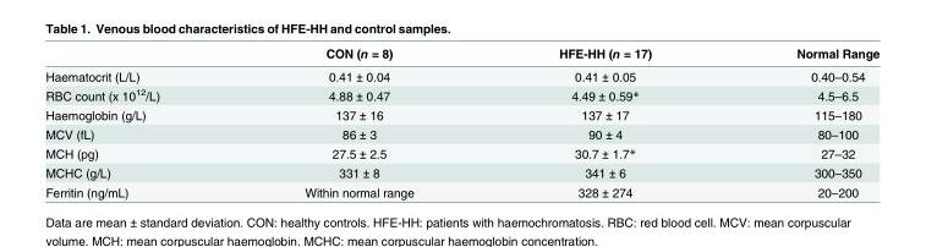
<table><thead><tr><td></td><td>CON (n = 8)</td><td>HFE-HH (n = 17)</td><td>Normal Range</td></tr></thead><tbody><tr><td>Haematocrit (L/L)</td><td>0.41 ± 0.04</td><td>0.41 ± 0.05</td><td>0.40–0.54</td></tr><tr><td>RBC count (x 10<sup>12</sup>/L)</td><td>4.88 ± 0.47</td><td>4.49 ± 0.59*</td><td>4.5–6.5</td></tr><tr><td>Haemoglobin (g/L)</td><td>137 ± 16</td><td>137 ± 17</td><td>115–180</td></tr><tr><td>MCV (fL)</td><td>86 ± 3</td><td>90 ± 4</td><td>80–100</td></tr><tr><td>MCH (pg)</td><td>27.5 ± 2.5</td><td>30.7 ± 1.7*</td><td>27–32</td></tr><tr><td>MCHC (g/L)</td><td>331 ± 8</td><td>341 ± 6</td><td>300–350</td></tr><tr><td>Ferritin (ng/mL)</td><td>Within normal range</td><td>328 ± 274</td><td>20–200</td></tr></tbody></table>